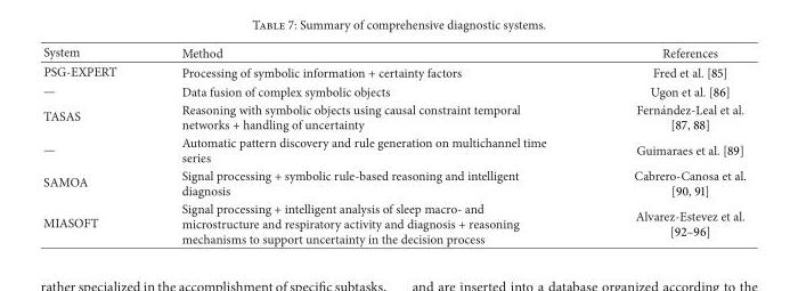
<table><thead><tr><td>System</td><td>Method</td><td>References</td></tr></thead><tbody><tr><td>PSG-EXPERT</td><td>Processing of symbolic information + certainty factors</td><td>Fred et al. [85]</td></tr><tr><td>—</td><td>Data fusion of complex symbolic objects</td><td>Ugon et al. [86]</td></tr><tr><td>TASAS</td><td>Reasoning with symbolic objects using causal constraint temporal networks + handling of uncertainty</td><td>Fern´andez-Leal et al. [87, 88]</td></tr><tr><td>—</td><td>Automatic pattern discovery and rule generation on multichannel time series</td><td>Guimaraes et al. [89]</td></tr><tr><td>SAMOA</td><td>Signal processing + symbolic rule-based reasoning and intelligent diagnosis</td><td>Cabrero-Canosa et al. [90, 91]</td></tr><tr><td>MIASOFT</td><td>Signal processing + intelligent analysis of sleep macro- and microstructure and respiratory activity and diagnosis + reasoning mechanisms to support uncertainty in the decision process</td><td>Alvarez-Estevez et al. [92–96]</td></tr></tbody></table>